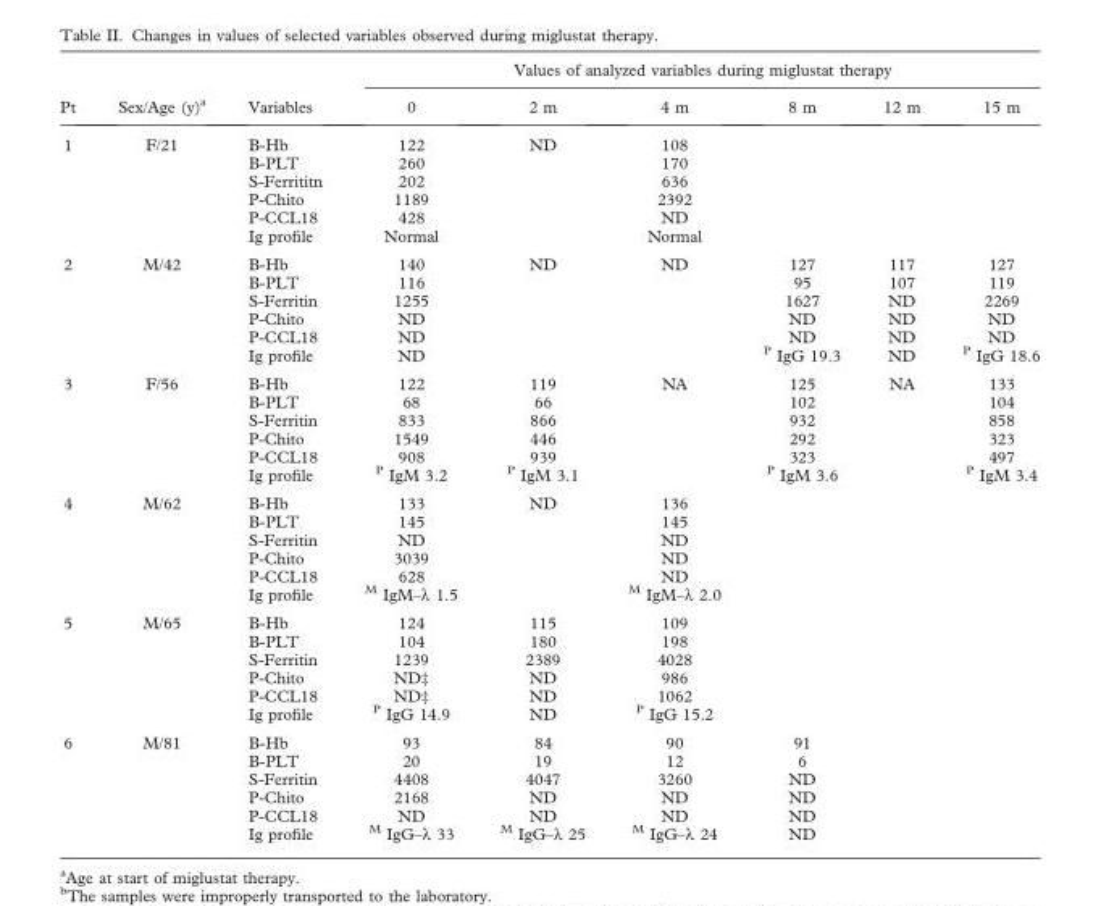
<table><thead><tr><td rowspan="2">Pt</td><td rowspan="2">Sex/Age (y)<sup>a</sup></td><td rowspan="2">Variables</td><td colspan="6">Values of analyzed variables during miglustat therapy</td></tr><tr><td>0</td><td>2 m</td><td>4 m</td><td>8 m</td><td>12 m</td><td>15 m</td></tr></thead><tbody><tr><td>1</td><td>F/21</td><td>B-Hb B-PLT S-Ferrititn P-Chito P-CCL18 Ig profile</td><td>122 260 202 1189 428 Normal</td><td>ND</td><td>108 170 636 2392 ND Normal</td><td></td><td></td><td></td></tr><tr><td>2</td><td>M/42</td><td>B-Hb B-PLT S-Ferritin P-Chito P-CCL18 Ig profile</td><td>140 116 1255 ND ND ND</td><td>ND</td><td>ND</td><td>127 95 1627 ND ND <sup>P</sup> IgG 19.3</td><td>117 107 ND ND ND ND</td><td>127 119 2269 ND ND <sup>P</sup> IgG 18.6</td></tr><tr><td>3</td><td>F/56</td><td>B-Hb B-PLT S-Ferritin P-Chito P-CCL18 Ig profile</td><td>122 68 833 1549 908 <sup>P</sup> IgM 3.2</td><td>119 66 866 446 939 <sup>P</sup> IgM 3.1</td><td>NA</td><td>125 102 932 292 323 <sup>P</sup> IgM 3.6</td><td>NA</td><td>133 104 858 323 497 <sup>P</sup> IgM 3.4</td></tr><tr><td>4</td><td>M/62</td><td>B-Hb B-PLT S-Ferritin P-Chito P-CCL18 Ig profile</td><td>133 145 ND 3039 628 <sup>M</sup> IgM–λ 1.5</td><td>ND</td><td>136 145 ND ND ND <sup>M</sup> IgM–λ 2.0</td><td></td><td></td><td></td></tr><tr><td>5</td><td>M/65</td><td>B-Hb B-PLT S-Ferritin P-Chito P-CCL18 Ig profile</td><td>124 104 1239 ND‡ ND‡ <sup>P</sup> IgG 14.9</td><td>115 180 2389 ND ND ND</td><td>109 198 4028 986 1062 <sup>P</sup> IgG 15.2</td><td></td><td></td><td></td></tr><tr><td>6</td><td>M/81</td><td>B-Hb B-PLT S-Ferritin P-Chito P-CCL18 Ig profile</td><td>93 20 4408 2168 ND <sup>M</sup> IgG–λ 33</td><td>84 19 4047 ND ND <sup>M</sup> IgG–λ 25</td><td>90 12 3260 ND ND <sup>M</sup> IgG–λ 24</td><td>91 6 ND ND ND ND</td><td></td><td></td></tr></tbody></table>